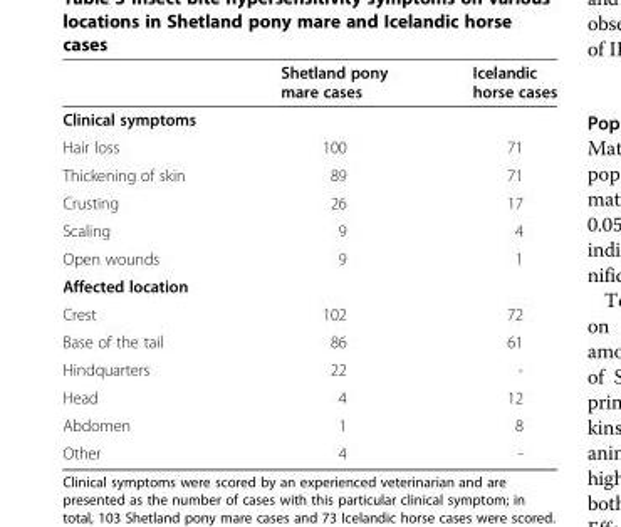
<table><thead><tr><td></td><td>Shetland pony mare cases</td><td>Icelandic horse cases</td></tr></thead><tbody><tr><td colspan="3">Clinical symptoms</td></tr><tr><td>Hair loss</td><td>100</td><td>71</td></tr><tr><td>Thickening of skin</td><td>89</td><td>71</td></tr><tr><td>Crusting</td><td>26</td><td>17</td></tr><tr><td>Scaling</td><td>9</td><td>4</td></tr><tr><td>Open wounds</td><td>9</td><td>1</td></tr><tr><td colspan="3">Affected location</td></tr><tr><td>Crest</td><td>102</td><td>72</td></tr><tr><td>Base of the tail</td><td>86</td><td>61</td></tr><tr><td>Hindquarters</td><td>22</td><td>-</td></tr><tr><td>Head</td><td>4</td><td>12</td></tr><tr><td>Abdomen</td><td>1</td><td>8</td></tr><tr><td>Other</td><td>4</td><td>-</td></tr></tbody></table>